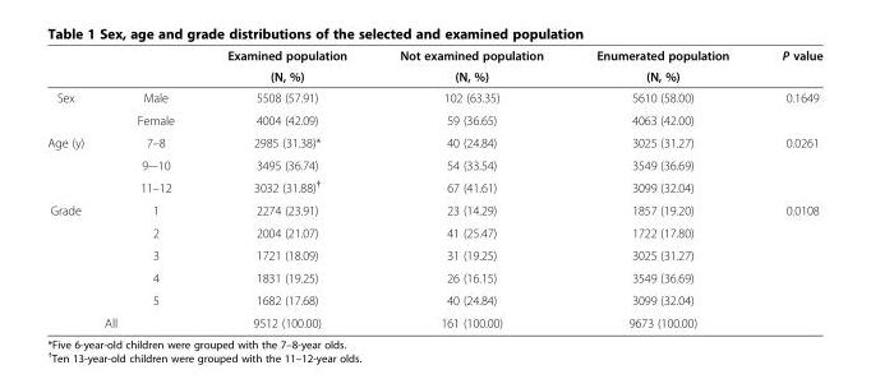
<table><thead><tr><td rowspan="2"></td><td rowspan="2"></td><td rowspan="2">Examined population (N, %)</td><td rowspan="2">Not examined population (N, %)</td><td rowspan="2">Enumerated population (N, %)</td><td rowspan="2">P value</td></tr><tr></tr></thead><tbody><tr><td rowspan="2">Sex</td><td>Male</td><td>5508 (57.91)</td><td>102 (63.35)</td><td>5610 (58.00)</td><td rowspan="2">0.1649</td></tr><tr><td>Female</td><td>4004 (42.09)</td><td>59 (36.65)</td><td>4063 (42.00)</td></tr><tr><td rowspan="3">Age (y)</td><td>7–8</td><td>2985 (31.38)*</td><td>40 (24.84)</td><td>3025 (31.27)</td><td rowspan="3">0.0261</td></tr><tr><td>9-–10</td><td>3495 (36.74)</td><td>54 (33.54)</td><td>3549 (36.69)</td></tr><tr><td>11–12</td><td>3032 (31.88)<sup>†</sup></td><td>67 (41.61)</td><td>3099 (32.04)</td></tr><tr><td rowspan="5">Grade</td><td>1</td><td>2274 (23.91)</td><td>23 (14.29)</td><td>1857 (19.20)</td><td rowspan="5">0.0108</td></tr><tr><td>2</td><td>2004 (21.07)</td><td>41 (25.47)</td><td>1722 (17.80)</td></tr><tr><td>3</td><td>1721 (18.09)</td><td>31 (19.25)</td><td>3025 (31.27)</td></tr><tr><td>4</td><td>1831 (19.25)</td><td>26 (16.15)</td><td>3549 (36.69)</td></tr><tr><td>5</td><td>1682 (17.68)</td><td>40 (24.84)</td><td>3099 (32.04)</td></tr><tr><td colspan="2">All</td><td>9512 (100.00)</td><td>161 (100.00)</td><td>9673 (100.00)</td><td></td></tr></tbody></table>